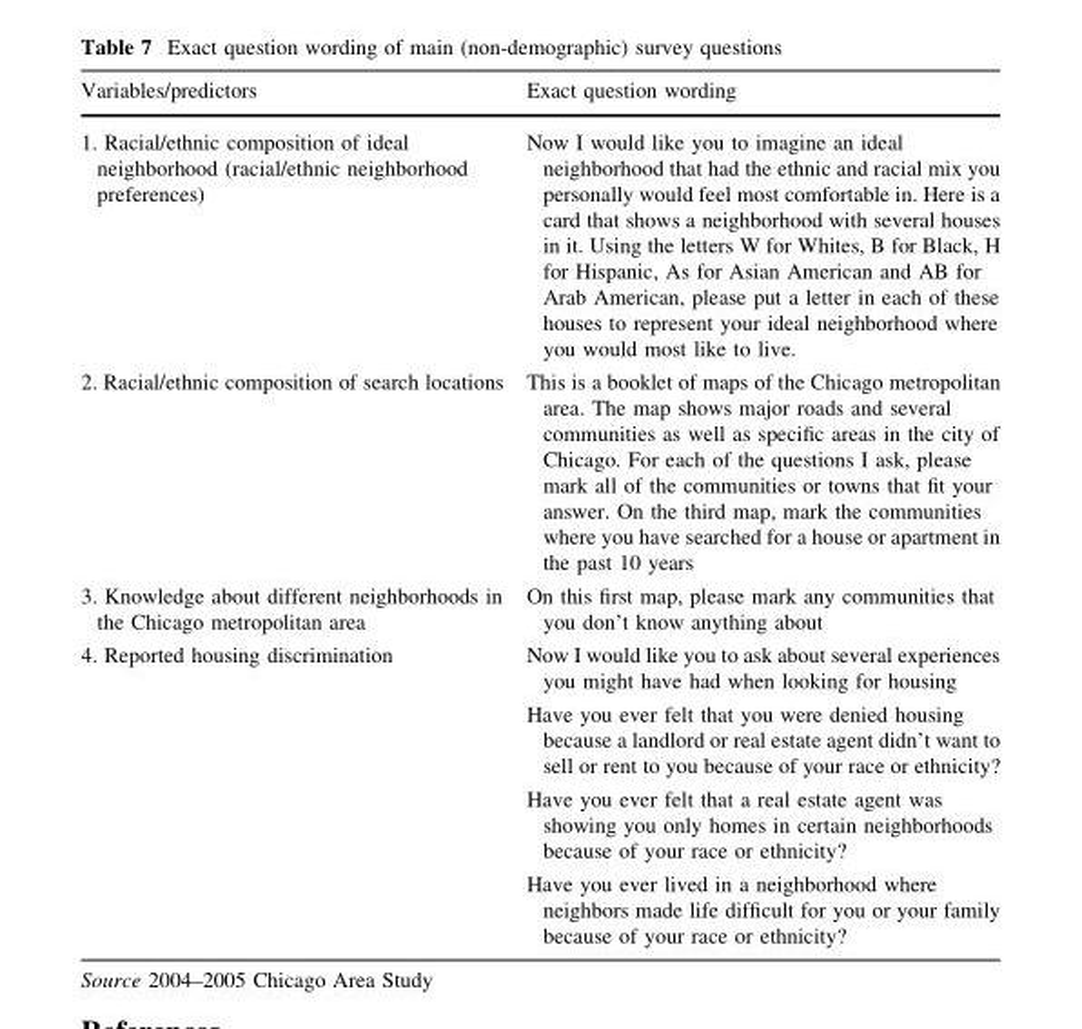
<table><thead><tr><td>Variables/predictors</td><td>Exact question wording</td></tr></thead><tbody><tr><td>1. Racial/ethnic composition of ideal neighborhood (racial/ethnic neighborhood preferences)</td><td>Now I would like you to imagine an ideal neighborhood that had the ethnic and racial mix you personally would feel most comfortable in. Here is a card that shows a neighborhood with several houses in it. Using the letters W for Whites, B for Black, H for Hispanic, As for Asian American and AB for Arab American, please put a letter in each of these houses to represent your ideal neighborhood where you would most like to live.</td></tr><tr><td>2. Racial/ethnic composition of search locations</td><td>This is a booklet of maps of the Chicago metropolitan area. The map shows major roads and several communities as well as specific areas in the city of Chicago. For each of the questions I ask, please mark all of the communities or towns that fit your answer. On the third map, mark the communities where you have searched for a house or apartment in the past 10 years</td></tr><tr><td>3. Knowledge about different neighborhoods in the Chicago metropolitan area</td><td>On this first map, please mark any communities that you don’t know anything about</td></tr><tr><td rowspan="4">4. Reported housing discrimination</td><td>Now I would like you to ask about several experiences you might have had when looking for housing</td></tr><tr><td>Have you ever felt that you were denied housing because a landlord or real estate agent didn’t want to sell or rent to you because of your race or ethnicity?</td></tr><tr><td>Have you ever felt that a real estate agent was showing you only homes in certain neighborhoods because of your race or ethnicity?</td></tr><tr><td>Have you ever lived in a neighborhood where neighbors made life difficult for you or your family because of your race or ethnicity?</td></tr></tbody></table>